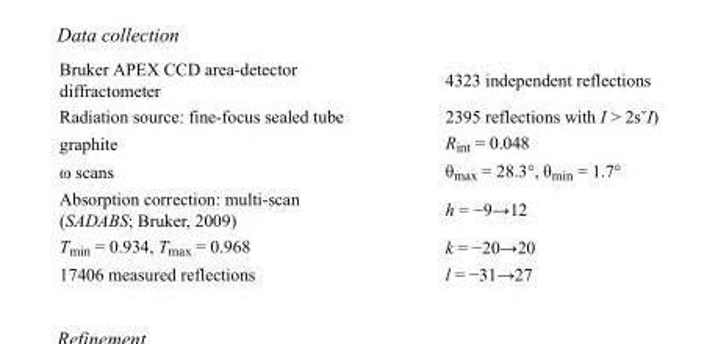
<table><tbody><tr><td>Bruker APEX CCD area-detector diffractometer</td><td>4323 independent reflections</td></tr><tr><td>Radiation source: fine-focus sealed tube</td><td>2395 reflections with I &gt; 2s˘I)</td></tr><tr><td>graphite</td><td>R<sub>int</sub> = 0.048</td></tr><tr><td>ω scans</td><td>θ<sub>max</sub> = 28.3°, θ<sub>min</sub> = 1.7°</td></tr><tr><td>Absorption correction: multi-scan (SADABS; Bruker, 2009)</td><td>h = −9→12</td></tr><tr><td>T<sub>min</sub> = 0.934, T<sub>max</sub> = 0.968</td><td>k = −20→20</td></tr><tr><td>17406 measured reflections</td><td>l = −31→27</td></tr></tbody></table>